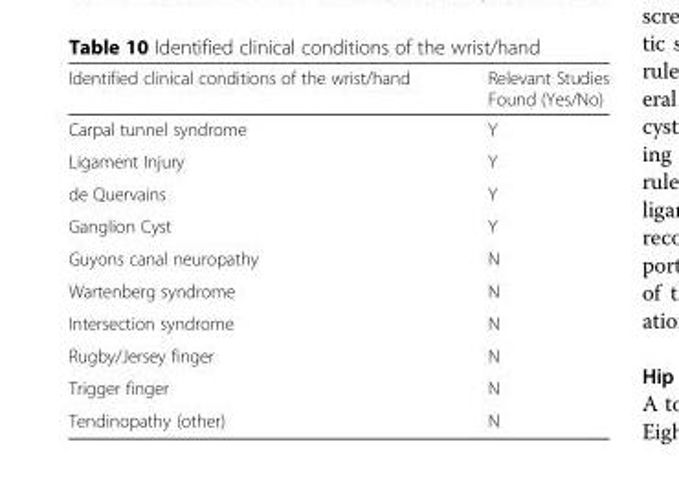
<table><thead><tr><td>Identified clinical conditions of the wrist/hand</td><td>Relevant Studies Found (Yes/No)</td></tr></thead><tbody><tr><td>Carpal tunnel syndrome</td><td>Y</td></tr><tr><td>Ligament Injury</td><td>Y</td></tr><tr><td>de Quervains</td><td>Y</td></tr><tr><td>Ganglion Cyst</td><td>Y</td></tr><tr><td>Guyons canal neuropathy</td><td>N</td></tr><tr><td>Wartenberg syndrome</td><td>N</td></tr><tr><td>Intersection syndrome</td><td>N</td></tr><tr><td>Rugby/Jersey finger</td><td>N</td></tr><tr><td>Trigger finger</td><td>N</td></tr><tr><td>Tendinopathy (other)</td><td>N</td></tr></tbody></table>